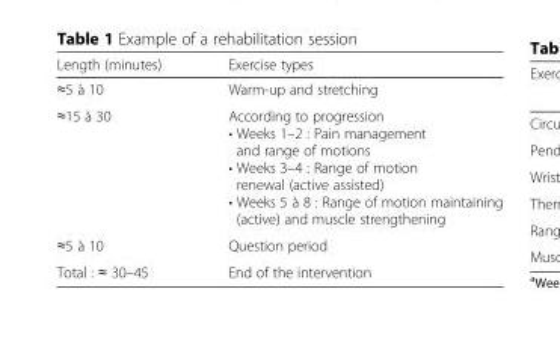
<table><thead><tr><td>Length (minutes)</td><td>Exercise types</td></tr></thead><tbody><tr><td>≈5 à 10</td><td>Warm-up and stretching</td></tr><tr><td>≈15 à 30</td><td>According to progression • Weeks 1–2 : Pain management and range of motions • Weeks 3–4 : Range of motion renewal (active assisted) • Weeks 5 à 8 : Range of motion maintaining (active) and muscle strengthening</td></tr><tr><td>≈5 à 10</td><td>Question period</td></tr><tr><td>Total : ≈ 30–45</td><td>End of the intervention</td></tr></tbody></table>